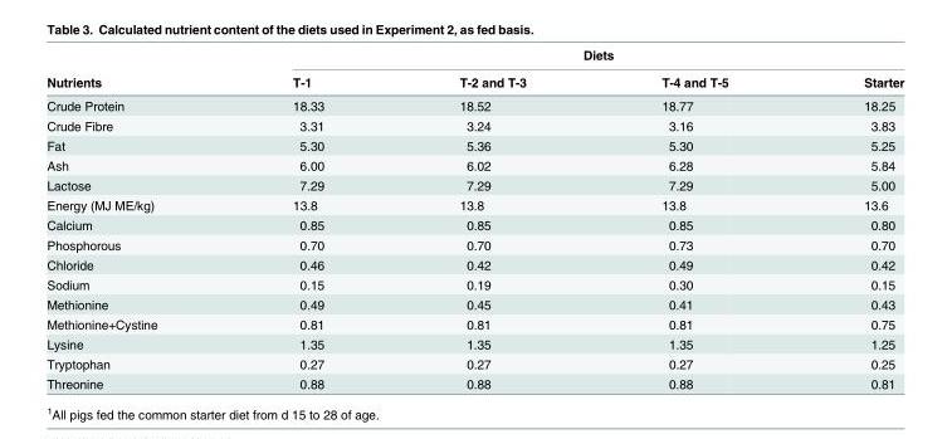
<table><thead><tr><td rowspan="2">Nutrients</td><td colspan="4">Diets</td></tr><tr><td>T-1</td><td>T-2 and T-3</td><td>T-4 and T-5</td><td>Starter</td></tr></thead><tbody><tr><td>Crude Protein</td><td>18.33</td><td>18.52</td><td>18.77</td><td>18.25</td></tr><tr><td>Crude Fibre</td><td>3.31</td><td>3.24</td><td>3.16</td><td>3.83</td></tr><tr><td>Fat</td><td>5.30</td><td>5.36</td><td>5.30</td><td>5.25</td></tr><tr><td>Ash</td><td>6.00</td><td>6.02</td><td>6.28</td><td>5.84</td></tr><tr><td>Lactose</td><td>7.29</td><td>7.29</td><td>7.29</td><td>5.00</td></tr><tr><td>Energy (MJ ME/kg)</td><td>13.8</td><td>13.8</td><td>13.8</td><td>13.6</td></tr><tr><td>Calcium</td><td>0.85</td><td>0.85</td><td>0.85</td><td>0.80</td></tr><tr><td>Phosphorous</td><td>0.70</td><td>0.70</td><td>0.73</td><td>0.70</td></tr><tr><td>Chloride</td><td>0.46</td><td>0.42</td><td>0.49</td><td>0.42</td></tr><tr><td>Sodium</td><td>0.15</td><td>0.19</td><td>0.30</td><td>0.15</td></tr><tr><td>Methionine</td><td>0.49</td><td>0.45</td><td>0.41</td><td>0.43</td></tr><tr><td>Methionine+Cystine</td><td>0.81</td><td>0.81</td><td>0.81</td><td>0.75</td></tr><tr><td>Lysine</td><td>1.35</td><td>1.35</td><td>1.35</td><td>1.25</td></tr><tr><td>Tryptophan</td><td>0.27</td><td>0.27</td><td>0.27</td><td>0.25</td></tr><tr><td>Threonine</td><td>0.88</td><td>0.88</td><td>0.88</td><td>0.81</td></tr></tbody></table>